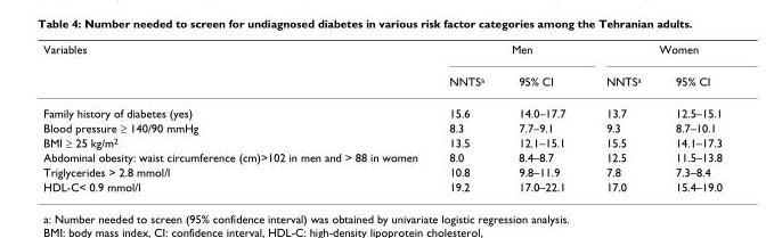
<table><thead><tr><td rowspan="2">Variables</td><td colspan="2">Men</td><td colspan="2">Women</td></tr><tr><td>NNTS<sup>a</sup></td><td>95% CI</td><td>NNTS<sup>a</sup></td><td>95% CI</td></tr></thead><tbody><tr><td>Family history of diabetes (yes)</td><td>15.6</td><td>14.0–17.7</td><td>13.7</td><td>12.5–15.1</td></tr><tr><td>Blood pressure ≥ 140/90 mmHg</td><td>8.3</td><td>7.7–9.1</td><td>9.3</td><td>8.7–10.1</td></tr><tr><td>BMI ≥ 25 kg/m<sup>2</sup></td><td>13.5</td><td>12.1–15.1</td><td>15.5</td><td>14.1–17.3</td></tr><tr><td>Abdominal obesity: waist circumference (cm)&gt;102 in men and &gt; 88 in women</td><td>8.0</td><td>8.4–8.7</td><td>12.5</td><td>11.5–13.8</td></tr><tr><td>Triglycerides &gt; 2.8 mmol/l</td><td>10.8</td><td>9.8–11.9</td><td>7.8</td><td>7.3–8.4</td></tr><tr><td>HDL-C&lt; 0.9 mmol/l</td><td>19.2</td><td>17.0–22.1</td><td>17.0</td><td>15.4–19.0</td></tr></tbody></table>